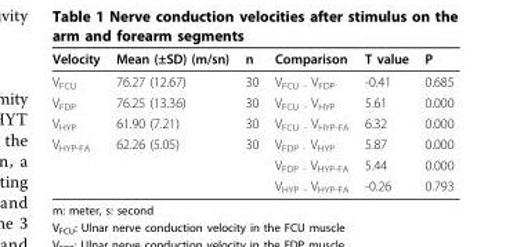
<table><thead><tr><td>Velocity</td><td>Mean (±SD) (m/sn)</td><td>n</td><td>Comparison</td><td>T value</td><td>P</td></tr></thead><tbody><tr><td>V<sub>FCU</sub></td><td>76.27 (12.67)</td><td>30</td><td>V<sub>FCU -</sub> V<sub>FDP</sub></td><td>-0.41</td><td>0.685</td></tr><tr><td>V<sub>FDP</sub></td><td>76.25 (13.36)</td><td>30</td><td>V<sub>FCU -</sub> V<sub>HYP</sub></td><td>5.61</td><td>0.000</td></tr><tr><td>V<sub>HYP</sub></td><td>61.90 (7.21)</td><td>30</td><td>V<sub>FCU -</sub> V<sub>HYP-FA</sub></td><td>6.32</td><td>0.000</td></tr><tr><td rowspan="3">V<sub>HYP-FA</sub></td><td>62.26 (5.05)</td><td>30</td><td>V<sub>FDP -</sub> V<sub>HYP</sub></td><td>5.87</td><td>0.000</td></tr><tr><td></td><td></td><td>V<sub>FDP -</sub> V<sub>HYP-FA</sub></td><td>5.44</td><td>0.000</td></tr><tr><td></td><td></td><td>V<sub>HYP -</sub> V<sub>HYP-FA</sub></td><td>-0.26</td><td>0.793</td></tr></tbody></table>